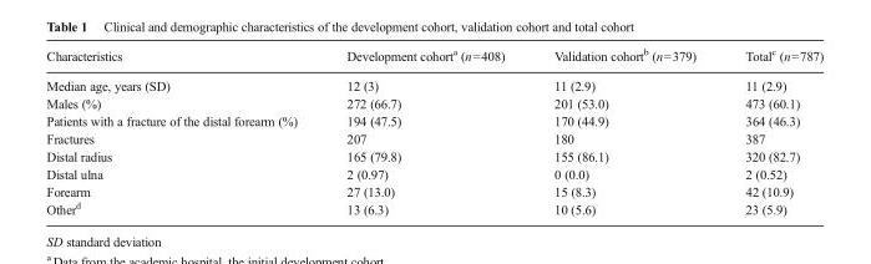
<table><thead><tr><td>Characteristics</td><td>Development cohort<sup>a</sup> (n=408)</td><td>Validation cohort<sup>b</sup> (n=379)</td><td>Total<sup>c</sup> (n=787)</td></tr></thead><tbody><tr><td>Median age, years (SD)</td><td>12 (3)</td><td>11 (2.9)</td><td>11 (2.9)</td></tr><tr><td>Males (%)</td><td>272 (66.7)</td><td>201 (53.0)</td><td>473 (60.1)</td></tr><tr><td>Patients with a fracture of the distal forearm (%)</td><td>194 (47.5)</td><td>170 (44.9)</td><td>364 (46.3)</td></tr><tr><td>Fractures</td><td>207</td><td>180</td><td>387</td></tr><tr><td>Distal radius</td><td>165 (79.8)</td><td>155 (86.1)</td><td>320 (82.7)</td></tr><tr><td>Distal ulna</td><td>2 (0.97)</td><td>0 (0.0)</td><td>2 (0.52)</td></tr><tr><td>Forearm</td><td>27 (13.0)</td><td>15 (8.3)</td><td>42 (10.9)</td></tr><tr><td>Other<sup>d</sup></td><td>13 (6.3)</td><td>10 (5.6)</td><td>23 (5.9)</td></tr></tbody></table>